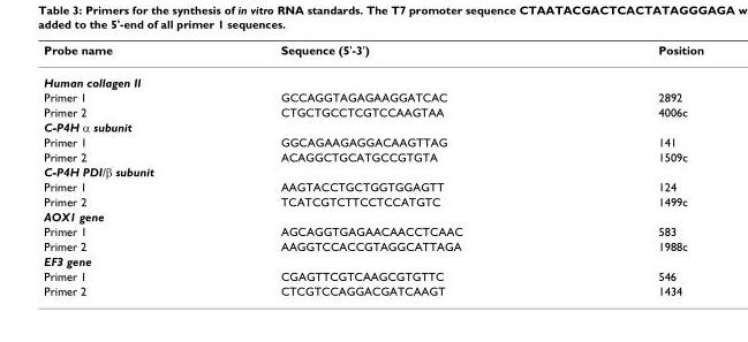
<table><thead><tr><td>Probe name</td><td>Sequence (5&#x27;-3&#x27;)</td><td>Position</td></tr></thead><tbody><tr><td colspan="3">Human collagen II</td></tr><tr><td>Primer 1</td><td>GCCAGGTAGAGAAGGATCAC</td><td>2892</td></tr><tr><td>Primer 2</td><td>CTGCTGCCTCGTCCAAGTAA</td><td>4006c</td></tr><tr><td colspan="3">C-P4H α subunit</td></tr><tr><td>Primer 1</td><td>GGCAGAAGAGGACAAGTTAG</td><td>141</td></tr><tr><td>Primer 2</td><td>ACAGGCTGCATGCCGTGTA</td><td>1509c</td></tr><tr><td colspan="3">C-P4H PDI/β subunit</td></tr><tr><td>Primer 1</td><td>AAGTACCTGCTGGTGGAGTT</td><td>124</td></tr><tr><td>Primer 2</td><td>TCATCGTCTTCCTCCATGTC</td><td>1499c</td></tr><tr><td colspan="3">AOX1 gene</td></tr><tr><td>Primer 1</td><td>AGCAGGTGAGAACAACCTCAAC</td><td>583</td></tr><tr><td>Primer 2</td><td>AAGGTCCACCGTAGGCATTAGA</td><td>1988c</td></tr><tr><td colspan="3">EF3 gene</td></tr><tr><td>Primer 1</td><td>CGAGTTCGTCAAGCGTGTTC</td><td>546</td></tr><tr><td>Primer 2</td><td>CTCGTCCAGGACGATCAAGT</td><td>1434</td></tr></tbody></table>